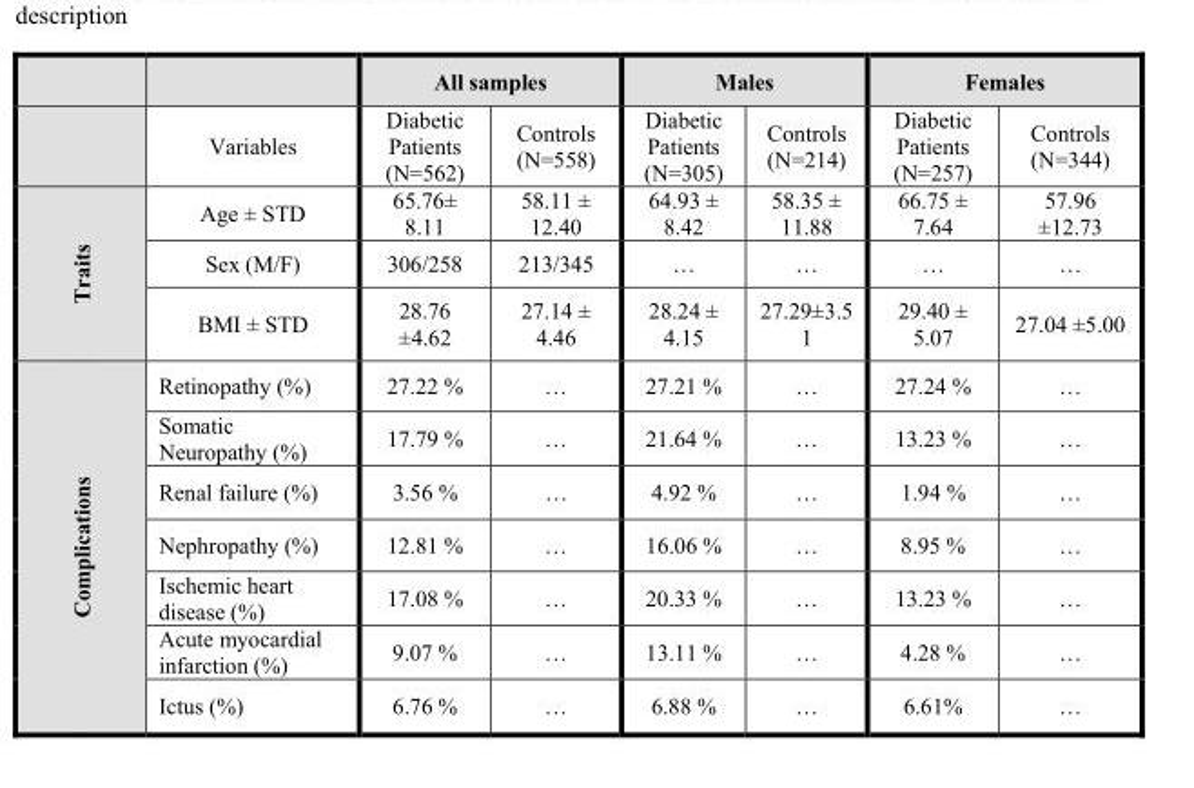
<table><thead><tr><td rowspan="2"></td><td rowspan="2">Variables</td><td colspan="2">All samples</td><td colspan="2">Males</td><td colspan="2">Females</td></tr><tr><td>Diabetic Patients (N=562)</td><td>Controls (N=558)</td><td>Diabetic Patients (N=305)</td><td>Controls (N=214)</td><td>Diabetic Patients (N=257)</td><td>Controls (N=344)</td></tr></thead><tbody><tr><td rowspan="3">Traits</td><td>Age ± STD</td><td>65.76± 8.11</td><td>58.11 ± 12.40</td><td>64.93 ± 8.42</td><td>58.35 ± 11.88</td><td>66.75 ± 7.64</td><td>57.96 ±12.73</td></tr><tr><td>Sex (M/F)</td><td>306/258</td><td>213/345</td><td>…</td><td>…</td><td>…</td><td>…</td></tr><tr><td>BMI ± STD</td><td>28.76 ±4.62</td><td>27.14 ± 4.46</td><td>28.24 ± 4.15</td><td>27.29±3.5 1</td><td>29.40 ± 5.07</td><td>27.04 ±5.00</td></tr><tr><td rowspan="7">Complications</td><td>Retinopathy (%)</td><td>27.22 %</td><td>…</td><td>27.21 %</td><td>…</td><td>27.24 %</td><td>…</td></tr><tr><td>Somatic Neuropathy (%)</td><td>17.79 %</td><td>…</td><td>21.64 %</td><td>…</td><td>13.23 %</td><td>…</td></tr><tr><td>Renal failure (%)</td><td>3.56 %</td><td>…</td><td>4.92 %</td><td>…</td><td>1.94 %</td><td>…</td></tr><tr><td>Nephropathy (%)</td><td>12.81 %</td><td>…</td><td>16.06 %</td><td>…</td><td>8.95 %</td><td>…</td></tr><tr><td>Ischemic heart disease (%)</td><td>17.08 %</td><td>…</td><td>20.33 %</td><td>…</td><td>13.23 %</td><td>…</td></tr><tr><td>Acute myocardial infarction (%)</td><td>9.07 %</td><td>…</td><td>13.11 %</td><td>…</td><td>4.28 %</td><td>…</td></tr><tr><td>Ictus (%)</td><td>6.76 %</td><td>…</td><td>6.88 %</td><td>…</td><td>6.61%</td><td>…</td></tr></tbody></table>